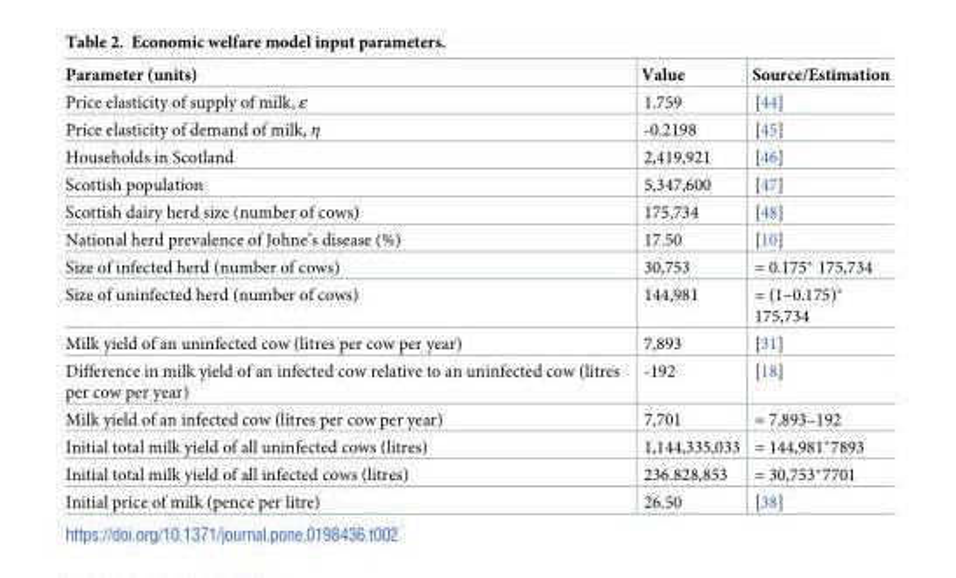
<table><thead><tr><td>Parameter (units)</td><td>Value</td><td>Source/Estimation</td></tr></thead><tbody><tr><td>Price elasticity of supply of milk, ε</td><td>1.759</td><td>[44]</td></tr><tr><td>Price elasticity of demand of milk, η</td><td>-0.2198</td><td>[45]</td></tr><tr><td>Households in Scotland</td><td>2,419,921</td><td>[46]</td></tr><tr><td>Scottish population</td><td>5,347,600</td><td>[47]</td></tr><tr><td>Scottish dairy herd size (number of cows)</td><td>175,734</td><td>[48]</td></tr><tr><td>National herd prevalence of Johne’s disease (%)</td><td>17.50</td><td>[10]</td></tr><tr><td>Size of infected herd (number of cows)</td><td>30,753</td><td>= 0.175* 175,734</td></tr><tr><td>Size of uninfected herd (number of cows)</td><td>144,981</td><td>= (1–0.175)* 175,734</td></tr><tr><td>Milk yield of an uninfected cow (litres per cow per year)</td><td>7,893</td><td>[31]</td></tr><tr><td>Difference in milk yield of an infected cow relative to an uninfected cow (litres per cow per year)</td><td>-192</td><td>[18]</td></tr><tr><td>Milk yield of an infected cow (litres per cow per year)</td><td>7,701</td><td>= 7,893–192</td></tr><tr><td>Initial total milk yield of all uninfected cows (litres)</td><td>1,144,335,033</td><td>= 144,981*7893</td></tr><tr><td>Initial total milk yield of all infected cows (litres)</td><td>236.828,853</td><td>= 30,753*7701</td></tr><tr><td>Initial price of milk (pence per litre)</td><td>26.50</td><td>[38]</td></tr></tbody></table>